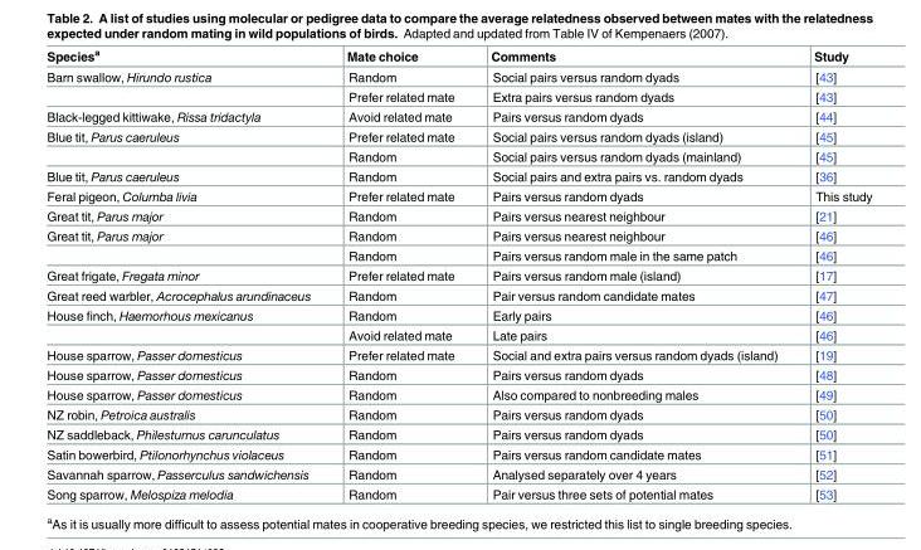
<table><thead><tr><td>Species<sup>a</sup></td><td>Mate choice</td><td>Comments</td><td>Study</td></tr></thead><tbody><tr><td rowspan="2">Barn swallow, Hirundo rustica</td><td>Random</td><td>Social pairs versus random dyads</td><td>[43]</td></tr><tr><td>Prefer related mate</td><td>Extra pairs versus random dyads</td><td>[43]</td></tr><tr><td>Black-legged kittiwake, Rissa tridactyla</td><td>Avoid related mate</td><td>Pairs versus random dyads</td><td>[44]</td></tr><tr><td rowspan="2">Blue tit, Parus caeruleus</td><td>Prefer related mate</td><td>Social pairs versus random dyads (island)</td><td>[45]</td></tr><tr><td>Random</td><td>Social pairs versus random dyads (mainland)</td><td>[45]</td></tr><tr><td>Blue tit, Parus caeruleus</td><td>Random</td><td>Social pairs and extra pairs vs. random dyads</td><td>[36]</td></tr><tr><td>Feral pigeon, Columba livia</td><td>Prefer related mate</td><td>Pairs versus random dyads</td><td>This study</td></tr><tr><td>Great tit, Parus major</td><td>Random</td><td>Pairs versus nearest neighbour</td><td>[21]</td></tr><tr><td rowspan="2">Great tit, Parus major</td><td>Random</td><td>Pairs versus nearest neighbour</td><td>[46]</td></tr><tr><td>Random</td><td>Pairs versus random male in the same patch</td><td>[46]</td></tr><tr><td>Great frigate, Fregata minor</td><td>Prefer related mate</td><td>Pairs versus random male (island)</td><td>[17]</td></tr><tr><td>Great reed warbler, Acrocephalus arundinaceus</td><td>Random</td><td>Pair versus random candidate mates</td><td>[47]</td></tr><tr><td rowspan="2">House finch, Haemorhous mexicanus</td><td>Random</td><td>Early pairs</td><td>[46]</td></tr><tr><td>Avoid related mate</td><td>Late pairs</td><td>[46]</td></tr><tr><td>House sparrow, Passer domesticus</td><td>Prefer related mate</td><td>Social and extra pairs versus random dyads (island)</td><td>[19]</td></tr><tr><td>House sparrow, Passer domesticus</td><td>Random</td><td>Pairs versus random dyads</td><td>[48]</td></tr><tr><td>House sparrow, Passer domesticus</td><td>Random</td><td>Also compared to nonbreeding males</td><td>[49]</td></tr><tr><td>NZ robin, Petroica australis</td><td>Random</td><td>Pairs versus random dyads</td><td>[50]</td></tr><tr><td>NZ saddleback, Philesturnus carunculatus</td><td>Random</td><td>Pairs versus random dyads</td><td>[50]</td></tr><tr><td>Satin bowerbird, Ptilonorhynchus violaceus</td><td>Random</td><td>Pairs versus random candidate mates</td><td>[51]</td></tr><tr><td>Savannah sparrow, Passerculus sandwichensis</td><td>Random</td><td>Analysed separately over 4 years</td><td>[52]</td></tr><tr><td>Song sparrow, Melospiza melodia</td><td>Random</td><td>Pair versus three sets of potential mates</td><td>[53]</td></tr></tbody></table>